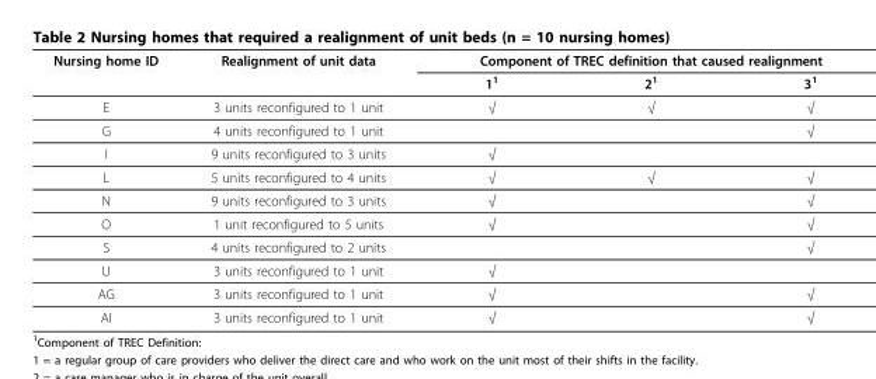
<table><thead><tr><td rowspan="2">Nursing home ID</td><td rowspan="2">Realignment of unit data</td><td colspan="3">Component of TREC definition that caused realignment</td></tr><tr><td>1<sup>1</sup></td><td>2<sup>1</sup></td><td>3<sup>1</sup></td></tr></thead><tbody><tr><td>E</td><td>3 units reconfigured to 1 unit</td><td>√</td><td>√</td><td>√</td></tr><tr><td>G</td><td>4 units reconfigured to 1 unit</td><td></td><td></td><td>√</td></tr><tr><td>I</td><td>9 units reconfigured to 3 units</td><td>√</td><td></td><td></td></tr><tr><td>L</td><td>5 units reconfigured to 4 units</td><td>√</td><td>√</td><td>√</td></tr><tr><td>N</td><td>9 units reconfigured to 3 units</td><td>√</td><td></td><td>√</td></tr><tr><td>O</td><td>1 unit reconfigured to 5 units</td><td>√</td><td></td><td>√</td></tr><tr><td>S</td><td>4 units reconfigured to 2 units</td><td></td><td></td><td>√</td></tr><tr><td>U</td><td>3 units reconfigured to 1 unit</td><td>√</td><td></td><td></td></tr><tr><td>AG</td><td>3 units reconfigured to 1 unit</td><td>√</td><td></td><td>√</td></tr><tr><td>AI</td><td>3 units reconfigured to 1 unit</td><td>√</td><td></td><td>√</td></tr></tbody></table>